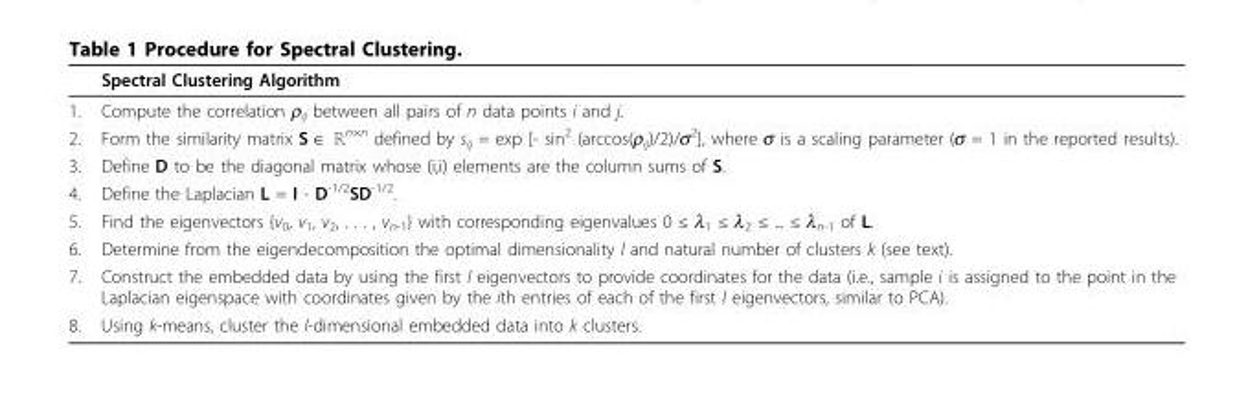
<table><thead><tr><td></td><td>Spectral Clustering Algorithm</td></tr></thead><tbody><tr><td>1.</td><td>Compute the correlation ρ<sub>ij</sub> between all pairs of n data points i and j.</td></tr><tr><td>2.</td><td>Form the similarity matrix S ∈ ℝ<sup>n×n</sup> defined by s<sub>ij</sub> = exp [- sin<sup>2</sup> (arccos(ρ<sub>ij</sub>)/2)/σ<sup>2</sup>], where σ is a scaling parameter (σ = 1 in the reported results).</td></tr><tr><td>3.</td><td>Define D to be the diagonal matrix whose (i,i) elements are the column sums of S.</td></tr><tr><td>4.</td><td>Define the Laplacian L = I - D<sup>-1/2</sup>SD<sup>-1/2</sup>.</td></tr><tr><td>5.</td><td>Find the eigenvectors {v0, v1, v2, . . . , vn-1} with corresponding eigenvalues 0 ≤ l1 ≤ l2 ≤ ... ≤ ln-1 of L.</td></tr><tr><td>6.</td><td>Determine from the eigendecomposition the optimal dimensionality l and natural number of clusters k (see text).</td></tr><tr><td>7.</td><td>Construct the embedded data by using the first l eigenvectors to provide coordinates for the data (i.e., sample i is assigned to the point in the Laplacian eigenspace with coordinates given by the ith entries of each of the first l eigenvectors, similar to PCA).</td></tr><tr><td>8.</td><td>Using k-means, cluster the l-dimensional embedded data into k clusters.</td></tr></tbody></table>